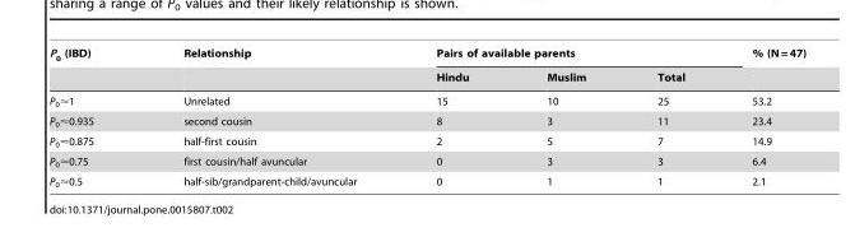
<table><thead><tr><td rowspan="2">P<sub>0</sub> (IBD)</td><td rowspan="2">Relationship</td><td colspan="3">Pairs of available parents</td><td rowspan="2">% (N = 47)</td></tr><tr><td>Hindu</td><td>Muslim</td><td>Total</td></tr></thead><tbody><tr><td>P0&lt;1</td><td>Unrelated</td><td>15</td><td>10</td><td>25</td><td>53.2</td></tr><tr><td>P0&lt;0.935</td><td>second cousin</td><td>8</td><td>3</td><td>11</td><td>23.4</td></tr><tr><td>P0&lt;0.875</td><td>half-first cousin</td><td>2</td><td>5</td><td>7</td><td>14.9</td></tr><tr><td>P0&lt;0.75</td><td>first cousin/half avuncular</td><td>0</td><td>3</td><td>3</td><td>6.4</td></tr><tr><td>P0&lt;0.5</td><td>half-sib/grandparent-child/avuncular</td><td>0</td><td>1</td><td>1</td><td>2.1</td></tr></tbody></table>